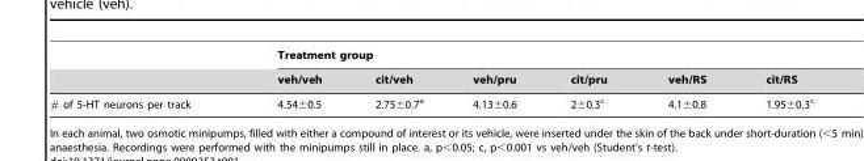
<table><thead><tr><td rowspan="2"></td><td colspan="6">Treatment group</td></tr><tr><td>veh/veh</td><td>cit/veh</td><td>veh/pru</td><td>cit/pru</td><td>veh/RS</td><td>cit/RS</td></tr></thead><tbody><tr><td># of 5-HT neurons per track</td><td>4.54±0.5</td><td>2.75±0.7<sup>a</sup></td><td>4.13±0.6</td><td>2±0.3<sup>c</sup></td><td>4.1±0.8</td><td>1.95±0.3<sup>c</sup></td></tr></tbody></table>